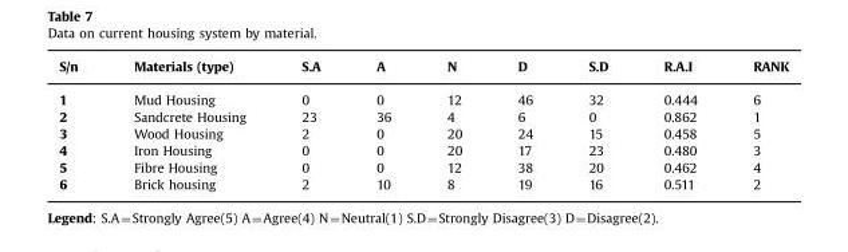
<table><thead><tr><td>S/n</td><td>Materials (type)</td><td>S.A</td><td>A</td><td>N</td><td>D</td><td>S.D</td><td>R.A.I</td><td>RANK</td></tr></thead><tbody><tr><td>1</td><td>Mud Housing</td><td>0</td><td>0</td><td>12</td><td>46</td><td>32</td><td>0.444</td><td>6</td></tr><tr><td>2</td><td>Sandcrete Housing</td><td>23</td><td>36</td><td>4</td><td>6</td><td>0</td><td>0.862</td><td>1</td></tr><tr><td>3</td><td>Wood Housing</td><td>2</td><td>0</td><td>20</td><td>24</td><td>15</td><td>0.458</td><td>5</td></tr><tr><td>4</td><td>Iron Housing</td><td>0</td><td>0</td><td>20</td><td>17</td><td>23</td><td>0.480</td><td>3</td></tr><tr><td>5</td><td>Fibre Housing</td><td>0</td><td>0</td><td>12</td><td>38</td><td>20</td><td>0.462</td><td>4</td></tr><tr><td>6</td><td>Brick housing</td><td>2</td><td>10</td><td>8</td><td>19</td><td>16</td><td>0.511</td><td>2</td></tr></tbody></table>